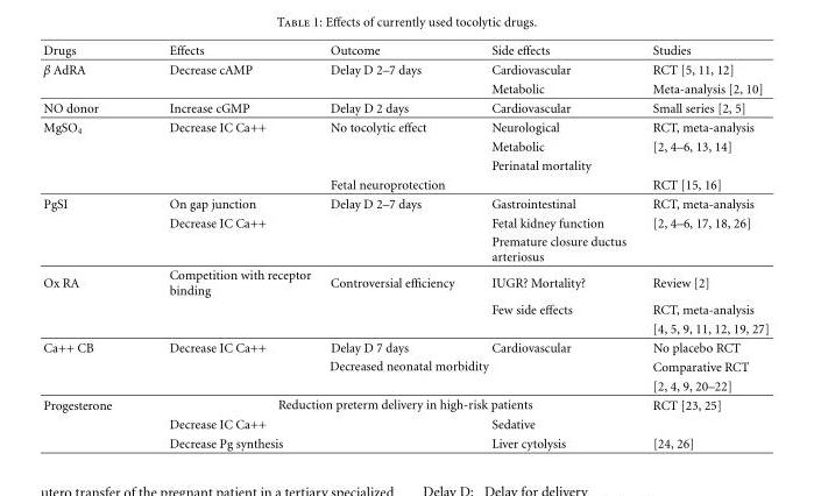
<table><thead><tr><td>Drugs</td><td>Effects</td><td>Outcome</td><td>Side effects</td><td>Studies</td></tr></thead><tbody><tr><td rowspan="2">β AdRA</td><td>Decrease cAMP</td><td>Delay D 2–7 days</td><td>Cardiovascular</td><td>RCT [5, 11, 12]</td></tr><tr><td></td><td></td><td>Metabolic</td><td>Meta-analysis [2, 10]</td></tr><tr><td>NO donor</td><td>Increase cGMP</td><td>Delay D 2 days</td><td>Cardiovascular</td><td>Small series [2, 5]</td></tr><tr><td rowspan="4">MgSO<sub>4</sub></td><td>Decrease IC Ca++</td><td>No tocolytic effect</td><td>Neurological</td><td>RCT, meta-analysis</td></tr><tr><td></td><td></td><td>Metabolic</td><td>[2, 4–6, 13, 14]</td></tr><tr><td></td><td></td><td>Perinatal mortality</td><td></td></tr><tr><td></td><td>Fetal neuroprotection</td><td></td><td>RCT [15, 16]</td></tr><tr><td rowspan="3">PgSI</td><td>On gap junction</td><td>Delay D 2–7 days</td><td>Gastrointestinal</td><td>RCT, meta-analysis</td></tr><tr><td>Decrease IC Ca++</td><td></td><td>Fetal kidney function</td><td>[2, 4–6, 17, 18, 26]</td></tr><tr><td></td><td></td><td>Premature closure ductus arteriosus</td><td></td></tr><tr><td rowspan="3">Ox RA</td><td>Competition with receptor binding</td><td>Controversial efficiency</td><td>IUGR? Mortality?</td><td>Review [2]</td></tr><tr><td></td><td></td><td>Few side effects</td><td>RCT, meta-analysis</td></tr><tr><td></td><td></td><td></td><td>[4, 5, 9, 11, 12, 19, 27]</td></tr><tr><td rowspan="3">Ca++ CB</td><td>Decrease IC Ca++</td><td>Delay D 7 days</td><td>Cardiovascular</td><td>No placebo RCT</td></tr><tr><td></td><td colspan="2">Decreased neonatal morbidity</td><td>Comparative RCT</td></tr><tr><td></td><td></td><td></td><td>[2, 4, 9, 20–22]</td></tr><tr><td rowspan="3">Progesterone</td><td colspan="3">Reduction preterm delivery in high-risk patients</td><td>RCT [23, 25]</td></tr><tr><td>Decrease IC Ca++</td><td></td><td>Sedative</td><td></td></tr><tr><td>Decrease Pg synthesis</td><td></td><td>Liver cytolysis</td><td>[24, 26]</td></tr></tbody></table>